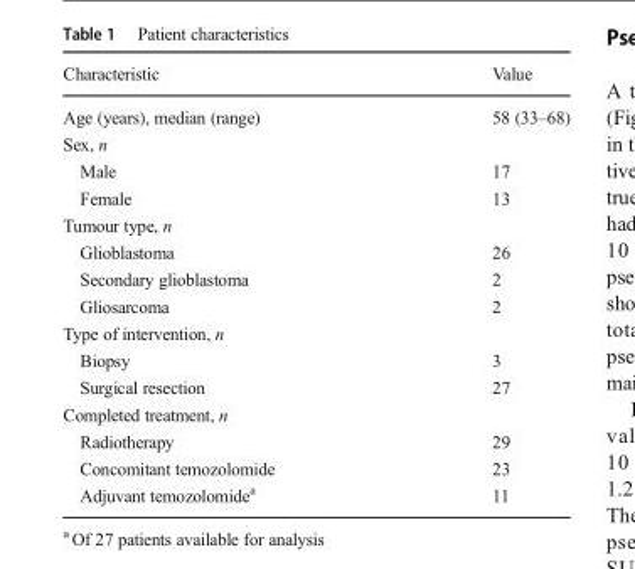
<table><thead><tr><td>Characteristic</td><td>Value</td></tr></thead><tbody><tr><td>Age (years), median (range)</td><td>58 (33–68)</td></tr><tr><td colspan="2">Sex, n</td></tr><tr><td>Male</td><td>17</td></tr><tr><td>Female</td><td>13</td></tr><tr><td colspan="2">Tumour type, n</td></tr><tr><td>Glioblastoma</td><td>26</td></tr><tr><td>Secondary glioblastoma</td><td>2</td></tr><tr><td>Gliosarcoma</td><td>2</td></tr><tr><td colspan="2">Type of intervention, n</td></tr><tr><td>Biopsy</td><td>3</td></tr><tr><td>Surgical resection</td><td>27</td></tr><tr><td colspan="2">Completed treatment, n</td></tr><tr><td>Radiotherapy</td><td>29</td></tr><tr><td>Concomitant temozolomide</td><td>23</td></tr><tr><td>Adjuvant temozolomide<sup>a</sup></td><td>11</td></tr></tbody></table>